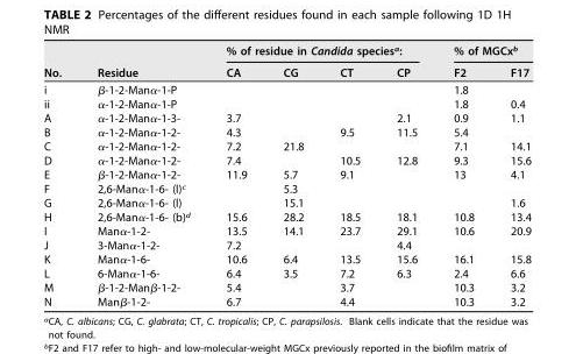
<table><thead><tr><td rowspan="2">No.</td><td rowspan="2">Residue</td><td colspan="4">% of residue in Candida species<sup>a</sup>:</td><td colspan="2">% of MGCx<sup>b</sup></td></tr><tr><td>CA</td><td>CG</td><td>CT</td><td>CP</td><td>F2</td><td>F17</td></tr></thead><tbody><tr><td>i</td><td>β-1-2-Manα-1-P</td><td></td><td></td><td></td><td></td><td>1.8</td><td></td></tr><tr><td>ii</td><td>α-1-2-Manα-1-P</td><td></td><td></td><td></td><td></td><td>1.8</td><td>0.4</td></tr><tr><td>A</td><td>α-1-2-Manα-1-3-</td><td>3.7</td><td></td><td></td><td>2.1</td><td>0.9</td><td>1.1</td></tr><tr><td>B</td><td>α-1-2-Manα-1-2-</td><td>4.3</td><td></td><td>9.5</td><td>11.5</td><td>5.4</td><td></td></tr><tr><td>C</td><td>α-1-2-Manα-1-2-</td><td>7.2</td><td>21.8</td><td></td><td></td><td>7.1</td><td>14.1</td></tr><tr><td>D</td><td>α-1-2-Manα-1-2-</td><td>7.4</td><td></td><td>10.5</td><td>12.8</td><td>9.3</td><td>15.6</td></tr><tr><td>E</td><td>β-1-2-Manα-1-2-</td><td>11.9</td><td>5.7</td><td>9.1</td><td></td><td>13</td><td>4.1</td></tr><tr><td>F</td><td>2,6-Manα-1-6- (l)<sup>c</sup></td><td></td><td>5.3</td><td></td><td></td><td></td><td></td></tr><tr><td>G</td><td>2,6-Manα-1-6- (l)</td><td></td><td>15.1</td><td></td><td></td><td></td><td>1.6</td></tr><tr><td>H</td><td>2,6-Manα-1-6- (b)<sup>d</sup></td><td>15.6</td><td>28.2</td><td>18.5</td><td>18.1</td><td>10.8</td><td>13.4</td></tr><tr><td>I</td><td>Manα-1-2-</td><td>13.5</td><td>14.1</td><td>23.7</td><td>29.1</td><td>10.6</td><td>20.9</td></tr><tr><td>J</td><td>3-Manα-1-2-</td><td>7.2</td><td></td><td></td><td>4.4</td><td></td><td></td></tr><tr><td>K</td><td>Manα-1-6-</td><td>10.6</td><td>6.4</td><td>13.5</td><td>15.6</td><td>16.1</td><td>15.8</td></tr><tr><td>L</td><td>6-Manα-1-6-</td><td>6.4</td><td>3.5</td><td>7.2</td><td>6.3</td><td>2.4</td><td>6.6</td></tr><tr><td>M</td><td>β-1-2-Manβ-1-2-</td><td>5.4</td><td></td><td>3.7</td><td></td><td>10.3</td><td>3.2</td></tr><tr><td>N</td><td>Manβ-1-2-</td><td>6.7</td><td></td><td>4.4</td><td></td><td>10.3</td><td>3.2</td></tr></tbody></table>